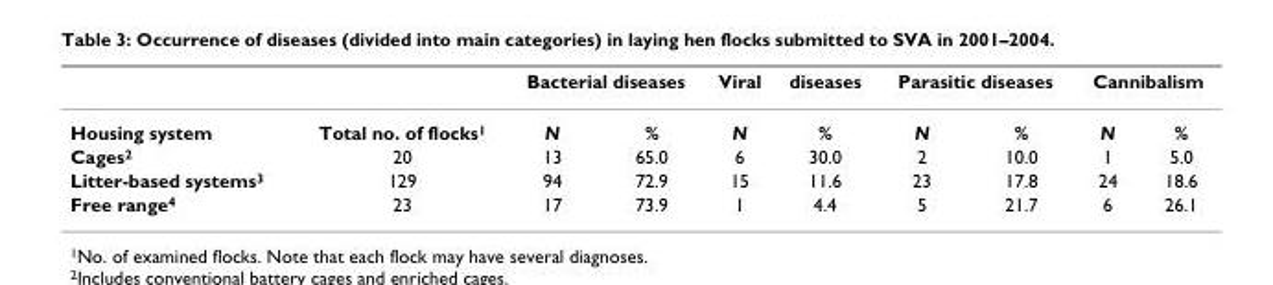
<table><thead><tr><td rowspan="2">Housing system</td><td rowspan="2">Total no. of flocks<sup>1</sup></td><td colspan="2">Bacterial diseases</td><td rowspan="2">Viral N</td><td rowspan="2">diseases %</td><td colspan="2">Parasitic diseases</td><td colspan="2">Cannibalism</td></tr><tr><td>N</td><td>%</td><td>N</td><td>%</td><td>N</td><td>%</td></tr></thead><tbody><tr><td>Cages<sup>2</sup></td><td>20</td><td>13</td><td>65.0</td><td>6</td><td>30.0</td><td>2</td><td>10.0</td><td>1</td><td>5.0</td></tr><tr><td>Litter-based systems<sup>3</sup></td><td>129</td><td>94</td><td>72.9</td><td>15</td><td>11.6</td><td>23</td><td>17.8</td><td>24</td><td>18.6</td></tr><tr><td>Free range<sup>4</sup></td><td>23</td><td>17</td><td>73.9</td><td>1</td><td>4.4</td><td>5</td><td>21.7</td><td>6</td><td>26.1</td></tr></tbody></table>